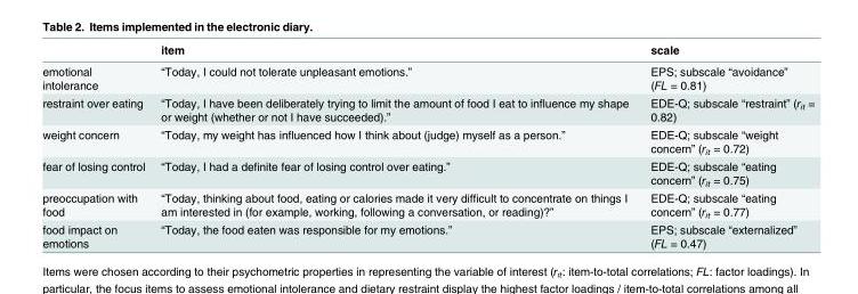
<table><thead><tr><td></td><td>item</td><td>scale</td></tr></thead><tbody><tr><td>emotional intolerance</td><td>“Today, I could not tolerate unpleasant emotions.”</td><td>EPS; subscale “avoidance” (FL = 0.81)</td></tr><tr><td>restraint over eating</td><td>“Today, I have been deliberately trying to limit the amount of food I eat to influence my shape or weight (whether or not I have succeeded).”</td><td>EDE-Q; subscale “restraint” (r<sub>it</sub> = 0.82)</td></tr><tr><td>weight concern</td><td>“Today, my weight has influenced how I think about (judge) myself as a person.”</td><td>EDE-Q; subscale “weight concern” (r<sub>it</sub> = 0.72)</td></tr><tr><td>fear of losing control</td><td>“Today, I had a definite fear of losing control over eating.”</td><td>EDE-Q; subscale “eating concern” (r<sub>it</sub> = 0.75)</td></tr><tr><td>preoccupation with food</td><td>“Today, thinking about food, eating or calories made it very difficult to concentrate on things I am interested in (for example, working, following a conversation, or reading)?”</td><td>EDE-Q; subscale “eating concern” (r<sub>it</sub> = 0.77)</td></tr><tr><td>food impact on emotions</td><td>“Today, the food eaten was responsible for my emotions.”</td><td>EPS; subscale “externalized” (FL = 0.47)</td></tr></tbody></table>